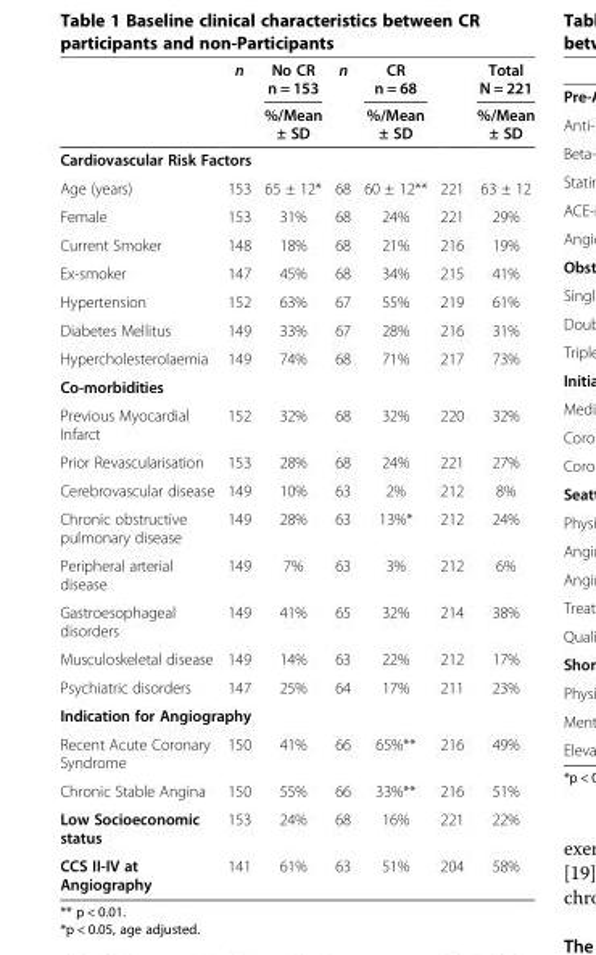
<table><thead><tr><td rowspan="2"></td><td rowspan="2">n</td><td rowspan="2">No CR n = 153 %/Mean ± SD</td><td rowspan="2">n</td><td rowspan="2">CR n = 68 %/Mean ± SD</td><td rowspan="2"></td><td rowspan="2">Total N = 221 %/Mean ± SD</td></tr><tr></tr></thead><tbody><tr><td colspan="7">Cardiovascular Risk Factors</td></tr><tr><td>Age (years)</td><td>153</td><td>65 ± 12*</td><td>68</td><td>60 ± 12**</td><td>221</td><td>63 ± 12</td></tr><tr><td>Female</td><td>153</td><td>31%</td><td>68</td><td>24%</td><td>221</td><td>29%</td></tr><tr><td>Current Smoker</td><td>148</td><td>18%</td><td>68</td><td>21%</td><td>216</td><td>19%</td></tr><tr><td>Ex-smoker</td><td>147</td><td>45%</td><td>68</td><td>34%</td><td>215</td><td>41%</td></tr><tr><td>Hypertension</td><td>152</td><td>63%</td><td>67</td><td>55%</td><td>219</td><td>61%</td></tr><tr><td>Diabetes Mellitus</td><td>149</td><td>33%</td><td>67</td><td>28%</td><td>216</td><td>31%</td></tr><tr><td>Hypercholesterolaemia</td><td>149</td><td>74%</td><td>68</td><td>71%</td><td>217</td><td>73%</td></tr><tr><td colspan="7">Co-morbidities</td></tr><tr><td>Previous Myocardial Infarct</td><td>152</td><td>32%</td><td>68</td><td>32%</td><td>220</td><td>32%</td></tr><tr><td>Prior Revascularisation</td><td>153</td><td>28%</td><td>68</td><td>24%</td><td>221</td><td>27%</td></tr><tr><td>Cerebrovascular disease</td><td>149</td><td>10%</td><td>63</td><td>2%</td><td>212</td><td>8%</td></tr><tr><td>Chronic obstructive pulmonary disease</td><td>149</td><td>28%</td><td>63</td><td>13%*</td><td>212</td><td>24%</td></tr><tr><td>Peripheral arterial disease</td><td>149</td><td>7%</td><td>63</td><td>3%</td><td>212</td><td>6%</td></tr><tr><td>Gastroesophageal disorders</td><td>149</td><td>41%</td><td>65</td><td>32%</td><td>214</td><td>38%</td></tr><tr><td>Musculoskeletal disease</td><td>149</td><td>14%</td><td>63</td><td>22%</td><td>212</td><td>17%</td></tr><tr><td>Psychiatric disorders</td><td>147</td><td>25%</td><td>64</td><td>17%</td><td>211</td><td>23%</td></tr><tr><td colspan="7">Indication for Angiography</td></tr><tr><td>Recent Acute Coronary Syndrome</td><td>150</td><td>41%</td><td>66</td><td>65%**</td><td>216</td><td>49%</td></tr><tr><td>Chronic Stable Angina</td><td>150</td><td>55%</td><td>66</td><td>33%**</td><td>216</td><td>51%</td></tr><tr><td>Low Socioeconomic status</td><td>153</td><td>24%</td><td>68</td><td>16%</td><td>221</td><td>22%</td></tr><tr><td>CCS II-IV at Angiography</td><td>141</td><td>61%</td><td>63</td><td>51%</td><td>204</td><td>58%</td></tr></tbody></table>